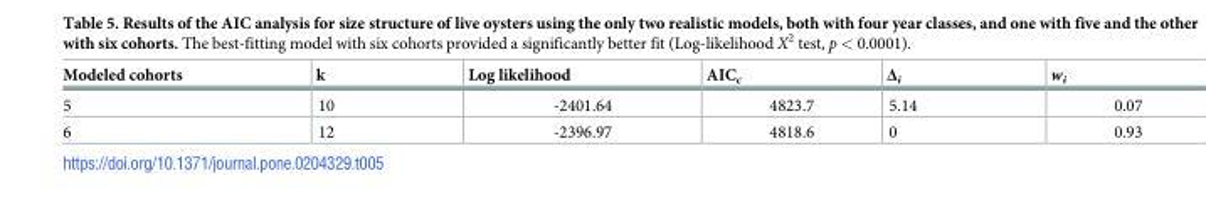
<table><thead><tr><td>Modeled cohorts</td><td>k</td><td>Log likelihood</td><td>AIC<sub>c</sub></td><td>Δ<sub>i</sub></td><td>w<sub>i</sub></td></tr></thead><tbody><tr><td>5</td><td>10</td><td>-2401.64</td><td>4823.7</td><td>5.14</td><td>0.07</td></tr><tr><td>6</td><td>12</td><td>-2396.97</td><td>4818.6</td><td>0</td><td>0.93</td></tr></tbody></table>